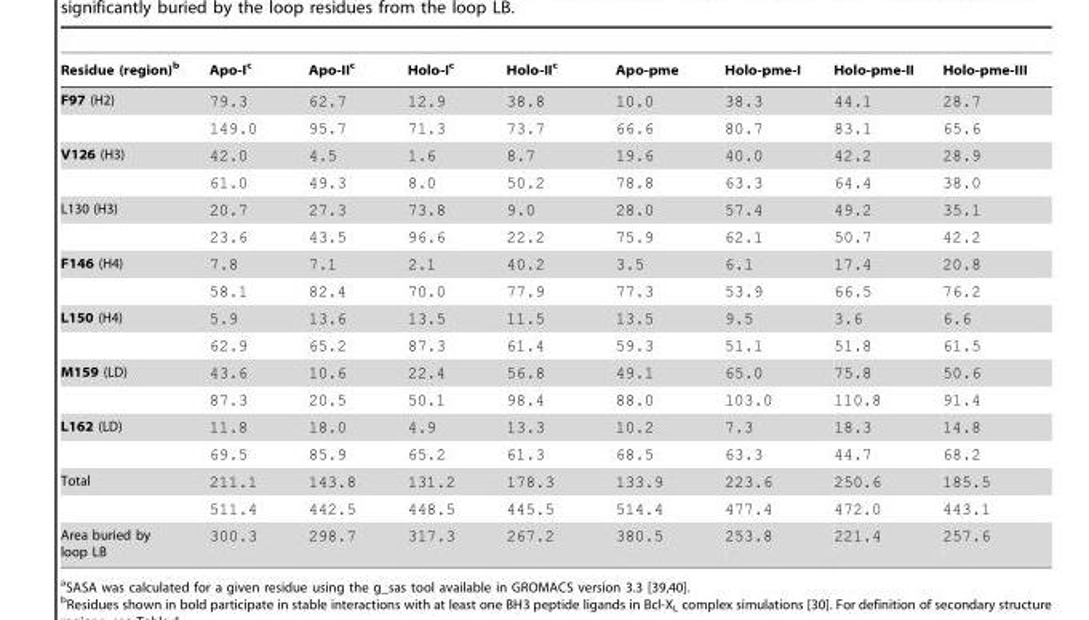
<table><thead><tr><td>Residue (region)<sup>b</sup></td><td>Apo-I<sup>c</sup></td><td>Apo-II<sup>c</sup></td><td>Holo-I<sup>c</sup></td><td>Holo-II<sup>c</sup></td><td>Apo-pme</td><td>Holo-pme-I</td><td>Holo-pme-II</td><td>Holo-pme-III</td></tr></thead><tbody><tr><td rowspan="2">F97 (H2)</td><td>79.3</td><td>62.7</td><td>12.9</td><td>38.8</td><td>10.0</td><td>38.3</td><td>44.1</td><td>28.7</td></tr><tr><td>149.0</td><td>95.7</td><td>71.3</td><td>73.7</td><td>66.6</td><td>80.7</td><td>83.1</td><td>65.6</td></tr><tr><td rowspan="2">V126 (H3)</td><td>42.0</td><td>4.5</td><td>1.6</td><td>8.7</td><td>19.6</td><td>40.0</td><td>42.2</td><td>28.9</td></tr><tr><td>61.0</td><td>49.3</td><td>8.0</td><td>50.2</td><td>78.8</td><td>63.3</td><td>64.4</td><td>38.0</td></tr><tr><td rowspan="2">L130 (H3)</td><td>20.7</td><td>27.3</td><td>73.8</td><td>9.0</td><td>28.0</td><td>57.4</td><td>49.2</td><td>35.1</td></tr><tr><td>23.6</td><td>43.5</td><td>96.6</td><td>22.2</td><td>75.9</td><td>62.1</td><td>50.7</td><td>42.2</td></tr><tr><td rowspan="2">F146 (H4)</td><td>7.8</td><td>7.1</td><td>2.1</td><td>40.2</td><td>3.5</td><td>6.1</td><td>17.4</td><td>20.8</td></tr><tr><td>58.1</td><td>82.4</td><td>70.0</td><td>77.9</td><td>77.3</td><td>53.9</td><td>66.5</td><td>76.2</td></tr><tr><td rowspan="2">L150 (H4)</td><td>5.9</td><td>13.6</td><td>13.5</td><td>11.5</td><td>13.5</td><td>9.5</td><td>3.6</td><td>6.6</td></tr><tr><td>62.9</td><td>65.2</td><td>87.3</td><td>61.4</td><td>59.3</td><td>51.1</td><td>51.8</td><td>61.5</td></tr><tr><td rowspan="2">M159 (LD)</td><td>43.6</td><td>10.6</td><td>22.4</td><td>56.8</td><td>49.1</td><td>65.0</td><td>75.8</td><td>50.6</td></tr><tr><td>87.3</td><td>20.5</td><td>50.1</td><td>98.4</td><td>88.0</td><td>103.0</td><td>110.8</td><td>91.4</td></tr><tr><td rowspan="2">L162 (LD)</td><td>11.8</td><td>18.0</td><td>4.9</td><td>13.3</td><td>10.2</td><td>7.3</td><td>18.3</td><td>14.8</td></tr><tr><td>69.5</td><td>85.9</td><td>65.2</td><td>61.3</td><td>68.5</td><td>63.3</td><td>44.7</td><td>68.2</td></tr><tr><td rowspan="2">Total</td><td>211.1</td><td>143.8</td><td>131.2</td><td>178.3</td><td>133.9</td><td>223.6</td><td>250.6</td><td>185.5</td></tr><tr><td>511.4</td><td>442.5</td><td>448.5</td><td>445.5</td><td>514.4</td><td>477.4</td><td>472.0</td><td>443.1</td></tr><tr><td>Area buried by loop LB</td><td>300.3</td><td>298.7</td><td>317.3</td><td>267.2</td><td>380.5</td><td>253.8</td><td>221.4</td><td>257.6</td></tr></tbody></table>